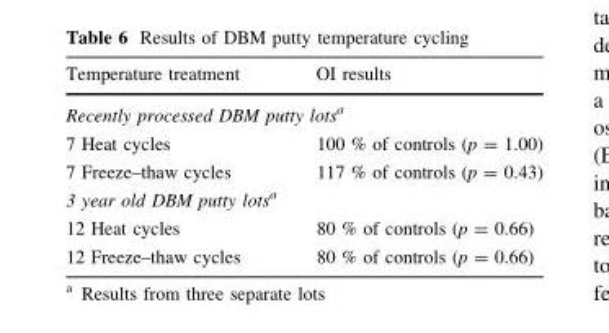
<table><thead><tr><td>Temperature treatment</td><td>OI results</td></tr></thead><tbody><tr><td colspan="2">Recently processed DBM putty lots<sup>a</sup></td></tr><tr><td>7 Heat cycles</td><td>100 % of controls (p = 1.00)</td></tr><tr><td>7 Freeze–thaw cycles</td><td>117 % of controls (p = 0.43)</td></tr><tr><td colspan="2">3 year old DBM putty lots<sup>a</sup></td></tr><tr><td>12 Heat cycles</td><td>80 % of controls (p = 0.66)</td></tr><tr><td>12 Freeze–thaw cycles</td><td>80 % of controls (p = 0.66)</td></tr></tbody></table>